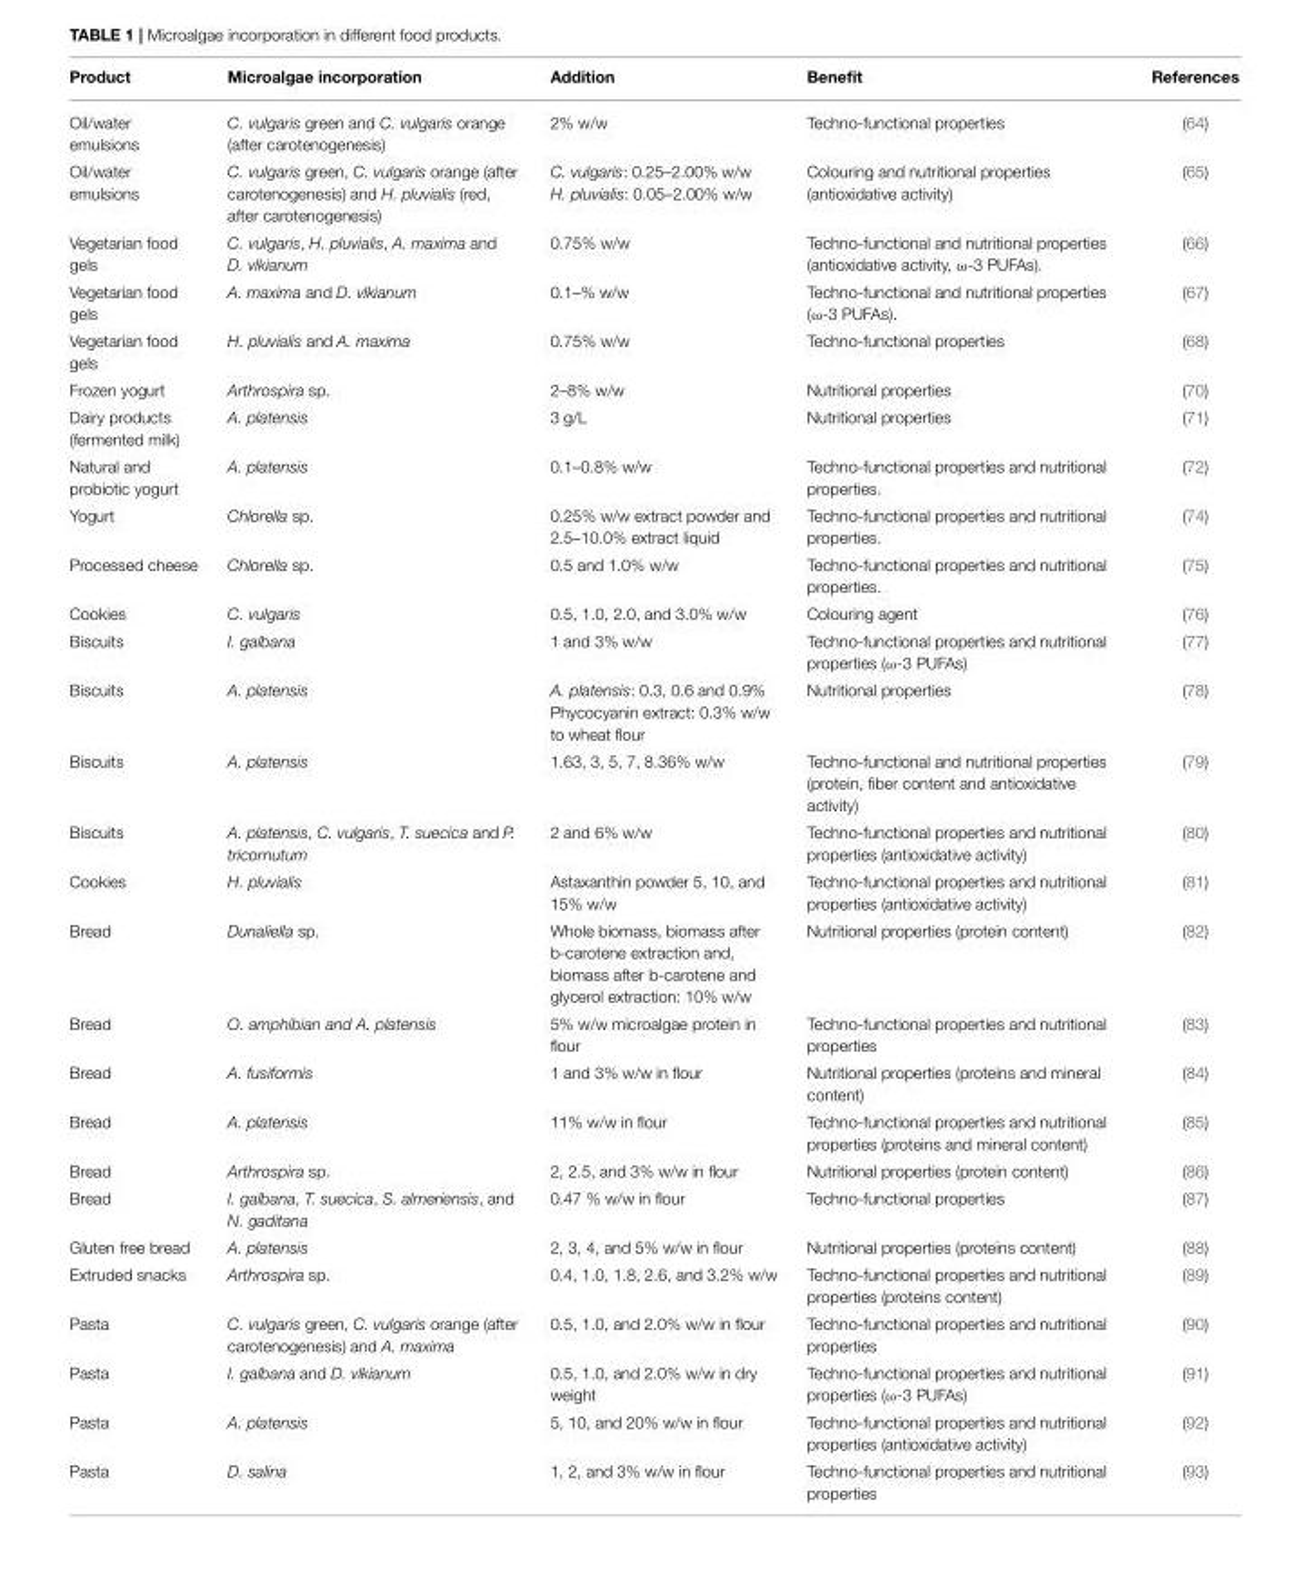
<table><thead><tr><td>Product</td><td>Microalgae incorporation</td><td>Addition</td><td>Benefit</td><td>References</td></tr></thead><tbody><tr><td>Oil/water emulsions</td><td>C. vulgaris green and C. vulgaris orange (after carotenogenesis)</td><td>2% w/w</td><td>Techno-functional properties</td><td>(64)</td></tr><tr><td>Oil/water emulsions</td><td>C. vulgaris green, C. vulgaris orange (after carotenogenesis) and H. pluvialis (red, after carotenogenesis)</td><td>C. vulgaris: 0.25–2.00% w/w H. pluvialis: 0.05–2.00% w/w</td><td>Colouring and nutritional properties (antioxidative activity)</td><td>(65)</td></tr><tr><td>Vegetarian food gels</td><td>C. vulgaris, H. pluvialis, A. maxima and D. vlkianum</td><td>0.75% w/w</td><td>Techno-functional and nutritional properties (antioxidative activity, ω-3 PUFAs).</td><td>(66)</td></tr><tr><td>Vegetarian food gels</td><td>A. maxima and D. vlkianum</td><td>0.1–% w/w</td><td>Techno-functional and nutritional properties (ω-3 PUFAs).</td><td>(67)</td></tr><tr><td>Vegetarian food gels</td><td>H. pluvialis and A. maxima</td><td>0.75% w/w</td><td>Techno-functional properties</td><td>(68)</td></tr><tr><td>Frozen yogurt</td><td>Arthrospira sp.</td><td>2–8% w/w</td><td>Nutritional properties</td><td>(70)</td></tr><tr><td>Dairy products (fermented milk)</td><td>A. platensis</td><td>3 g/L</td><td>Nutritional properties</td><td>(71)</td></tr><tr><td>Natural and probiotic yogurt</td><td>A. platensis</td><td>0.1–0.8% w/w</td><td>Techno-functional properties and nutritional properties.</td><td>(72)</td></tr><tr><td>Yogurt</td><td>Chlorella sp.</td><td>0.25% w/w extract powder and 2.5–10.0% extract liquid</td><td>Techno-functional properties and nutritional properties.</td><td>(74)</td></tr><tr><td>Processed cheese</td><td>Chlorella sp.</td><td>0.5 and 1.0% w/w</td><td>Techno-functional properties and nutritional properties.</td><td>(75)</td></tr><tr><td>Cookies</td><td>C. vulgaris</td><td>0.5, 1.0, 2.0, and 3.0% w/w</td><td>Colouring agent</td><td>(76)</td></tr><tr><td>Biscuits</td><td>I. galbana</td><td>1 and 3% w/w</td><td>Techno-functional properties and nutritional properties (ω-3 PUFAs)</td><td>(77)</td></tr><tr><td>Biscuits</td><td>A. platensis</td><td>A. platensis: 0.3, 0.6 and 0.9% Phycocyanin extract: 0.3% w/w to wheat flour</td><td>Nutritional properties</td><td>(78)</td></tr><tr><td>Biscuits</td><td>A. platensis</td><td>1.63, 3, 5, 7, 8.36% w/w</td><td>Techno-functional and nutritional properties (protein, fiber content and antioxidative activity)</td><td>(79)</td></tr><tr><td>Biscuits</td><td>A. platensis, C. vulgaris, T. suecica and P. tricornutum</td><td>2 and 6% w/w</td><td>Techno-functional properties and nutritional properties (antioxidative activity)</td><td>(80)</td></tr><tr><td>Cookies</td><td>H. pluvialis</td><td>Astaxanthin powder 5, 10, and 15% w/w</td><td>Techno-functional properties and nutritional properties (antioxidative activity)</td><td>(81)</td></tr><tr><td>Bread</td><td>Dunaliella sp.</td><td>Whole biomass, biomass after b-carotene extraction and, biomass after b-carotene and glycerol extraction: 10% w/w</td><td>Nutritional properties (protein content)</td><td>(82)</td></tr><tr><td>Bread</td><td>O. amphibian and A. platensis</td><td>5% w/w microalgae protein in flour</td><td>Techno-functional properties and nutritional properties</td><td>(83)</td></tr><tr><td>Bread</td><td>A. fusiformis</td><td>1 and 3% w/w in flour</td><td>Nutritional properties (proteins and mineral content)</td><td>(84)</td></tr><tr><td>Bread</td><td>A. platensis</td><td>11% w/w in flour</td><td>Techno-functional properties and nutritional properties (proteins and mineral content)</td><td>(85)</td></tr><tr><td>Bread</td><td>Arthrospira sp.</td><td>2, 2.5, and 3% w/w in flour</td><td>Nutritional properties (protein content)</td><td>(86)</td></tr><tr><td>Bread</td><td>I. galbana, T. suecica, S. almeriensis, and N. gaditana</td><td>0.47 % w/w in flour</td><td>Techno-functional properties</td><td>(87)</td></tr><tr><td>Gluten free bread</td><td>A. platensis</td><td>2, 3, 4, and 5% w/w in flour</td><td>Nutritional properties (proteins content)</td><td>(88)</td></tr><tr><td>Extruded snacks</td><td>Arthrospira sp.</td><td>0.4, 1.0, 1.8, 2.6, and 3.2% w/w</td><td>Techno-functional properties and nutritional properties (proteins content)</td><td>(89)</td></tr><tr><td>Pasta</td><td>C. vulgaris green, C. vulgaris orange (after carotenogenesis) and A. maxima</td><td>0.5, 1.0, and 2.0% w/w in flour</td><td>Techno-functional properties and nutritional properties</td><td>(90)</td></tr><tr><td>Pasta</td><td>I. galbana and D. vlkianum</td><td>0.5, 1.0, and 2.0% w/w in dry weight</td><td>Techno-functional properties and nutritional properties (ω-3 PUFAs)</td><td>(91)</td></tr><tr><td>Pasta</td><td>A. platensis</td><td>5, 10, and 20% w/w in flour</td><td>Techno-functional properties and nutritional properties (antioxidative activity)</td><td>(92)</td></tr><tr><td>Pasta</td><td>D. salina</td><td>1, 2, and 3% w/w in flour</td><td>Techno-functional properties and nutritional properties</td><td>(93)</td></tr></tbody></table>